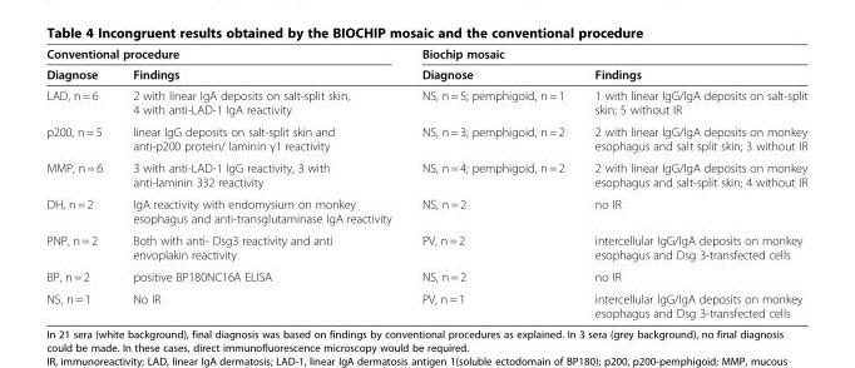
<table><thead><tr><td colspan="2">Conventional procedure</td><td colspan="2">Biochip mosaic</td></tr><tr><td>Diagnose</td><td>Findings</td><td>Diagnose</td><td>Findings</td></tr></thead><tbody><tr><td>LAD, n = 6</td><td>2 with linear IgA deposits on salt-split skin, 4 with anti-LAD-1 IgA reactivity</td><td>NS, n = 5; pemphigoid, n = 1</td><td>1 with linear IgG/IgA deposits on salt-split skin; 5 without IR</td></tr><tr><td>p200, n = 5</td><td>linear IgG deposits on salt-split skin and anti-p200 protein/ laminin γ1 reactivity</td><td>NS, n = 3; pemphigoid, n = 2</td><td>2 with linear IgG/IgA deposits on monkey esophagus and salt split skin; 3 without IR</td></tr><tr><td>MMP, n = 6</td><td>3 with anti-LAD-1 IgG reactivity, 3 with anti-laminin 332 reactivity</td><td>NS, n = 4; pemphigoid, n = 2</td><td>2 with linear IgG/IgA deposits on monkey esophagus and salt-split skin; 4 without IR</td></tr><tr><td>DH, n = 2</td><td>IgA reactivity with endomysium on monkey esophagus and anti-transglutaminase IgA reactivity</td><td>NS, n = 2</td><td>no IR</td></tr><tr><td>PNP, n = 2</td><td>Both with anti- Dsg3 reactivity and anti envoplakin reactivity</td><td>PV, n = 2</td><td>intercellular IgG/IgA deposits on monkey esophagus and Dsg 3-transfected cells</td></tr><tr><td>BP, n = 2</td><td>positive BP180NC16A ELISA</td><td>NS, n = 2</td><td>no IR</td></tr><tr><td>NS, n = 1</td><td>No IR</td><td>PV, n = 1</td><td>intercellular IgG/IgA deposits on monkey esophagus and Dsg 3-transfected cells</td></tr></tbody></table>